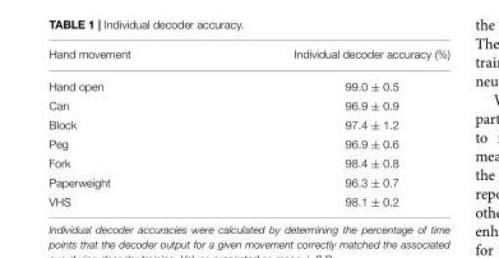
<table><thead><tr><td>Hand movement</td><td>Individual decoder accuracy (%)</td></tr></thead><tbody><tr><td>Hand open</td><td>99.0 ± 0.5</td></tr><tr><td>Can</td><td>96.9 ± 0.9</td></tr><tr><td>Block</td><td>97.4 ± 1.2</td></tr><tr><td>Peg</td><td>96.9 ± 0.6</td></tr><tr><td>Fork</td><td>98.4 ± 0.8</td></tr><tr><td>Paperweight</td><td>96.3 ± 0.7</td></tr><tr><td>VHS</td><td>98.1 ± 0.2</td></tr></tbody></table>